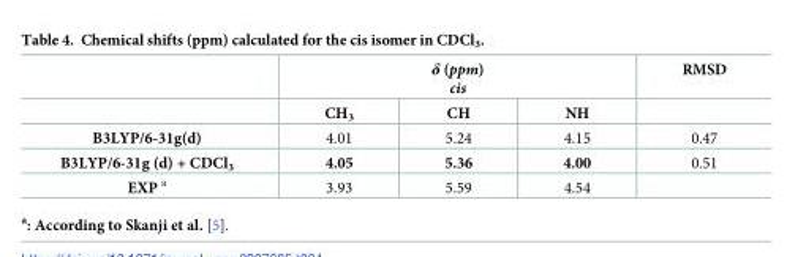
<table><thead><tr><td rowspan="2"></td><td colspan="3">δ (ppm) cis</td><td rowspan="2">RMSD</td></tr><tr><td>CH<sub>3</sub></td><td>CH</td><td>NH</td></tr></thead><tbody><tr><td>B3LYP/6-31g(d)</td><td>4.01</td><td>5.24</td><td>4.15</td><td>0.47</td></tr><tr><td>B3LYP/6-31g (d) + CDCl<sub>3</sub></td><td>4.05</td><td>5.36</td><td>4.00</td><td>0.51</td></tr><tr><td>EXP <sup>a</sup></td><td>3.93</td><td>5.59</td><td>4.54</td><td></td></tr></tbody></table>